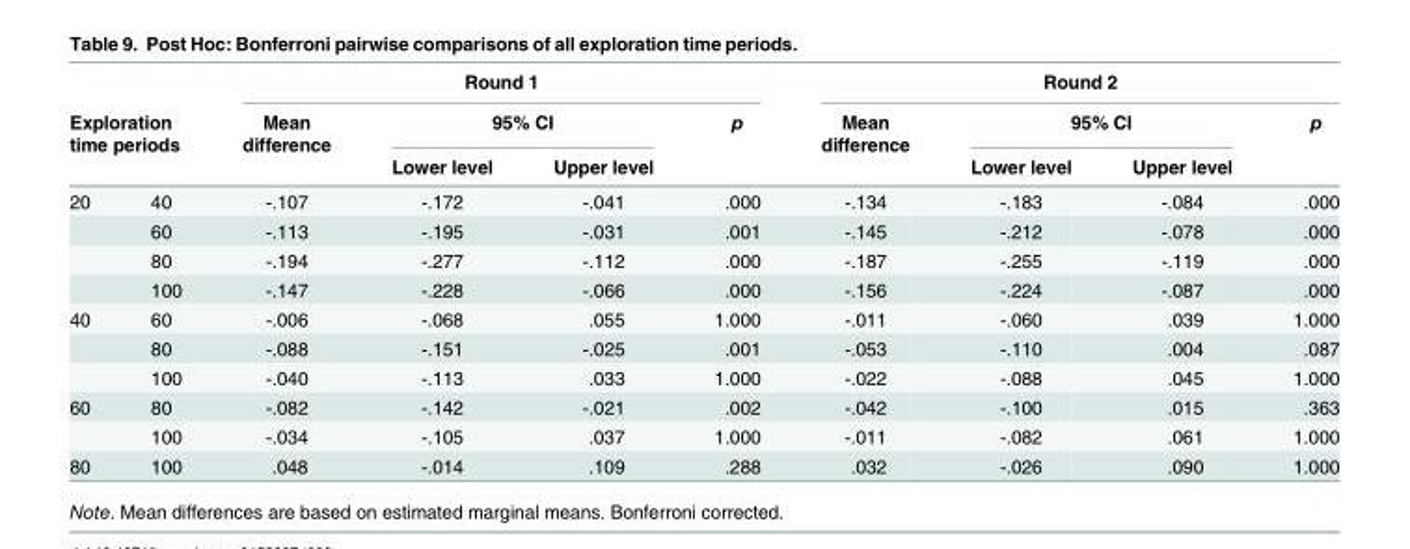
<table><thead><tr><td></td><td></td><td colspan="4">Round 1</td><td colspan="4">Round 2</td></tr><tr><td colspan="2">Exploration time periods</td><td rowspan="2">Mean difference</td><td colspan="2">95% CI</td><td rowspan="2">p</td><td rowspan="2">Mean difference</td><td colspan="2">95% CI</td><td rowspan="2">p</td></tr><tr><td></td><td></td><td>Lower level</td><td>Upper level</td><td>Lower level</td><td>Upper level</td></tr></thead><tbody><tr><td rowspan="4">20</td><td>40</td><td>-.107</td><td>-.172</td><td>-.041</td><td>.000</td><td>-.134</td><td>-.183</td><td>-.084</td><td>.000</td></tr><tr><td>60</td><td>-.113</td><td>-.195</td><td>-.031</td><td>.001</td><td>-.145</td><td>-.212</td><td>-.078</td><td>.000</td></tr><tr><td>80</td><td>-.194</td><td>-.277</td><td>-.112</td><td>.000</td><td>-.187</td><td>-.255</td><td>-.119</td><td>.000</td></tr><tr><td>100</td><td>-.147</td><td>-.228</td><td>-.066</td><td>.000</td><td>-.156</td><td>-.224</td><td>-.087</td><td>.000</td></tr><tr><td rowspan="3">40</td><td>60</td><td>-.006</td><td>-.068</td><td>.055</td><td>1.000</td><td>-.011</td><td>-.060</td><td>.039</td><td>1.000</td></tr><tr><td>80</td><td>-.088</td><td>-.151</td><td>-.025</td><td>.001</td><td>-.053</td><td>-.110</td><td>.004</td><td>.087</td></tr><tr><td>100</td><td>-.040</td><td>-.113</td><td>.033</td><td>1.000</td><td>-.022</td><td>-.088</td><td>.045</td><td>1.000</td></tr><tr><td rowspan="2">60</td><td>80</td><td>-.082</td><td>-.142</td><td>-.021</td><td>.002</td><td>-.042</td><td>-.100</td><td>.015</td><td>.363</td></tr><tr><td>100</td><td>-.034</td><td>-.105</td><td>.037</td><td>1.000</td><td>-.011</td><td>-.082</td><td>.061</td><td>1.000</td></tr><tr><td>80</td><td>100</td><td>.048</td><td>-.014</td><td>.109</td><td>.288</td><td>.032</td><td>-.026</td><td>.090</td><td>1.000</td></tr></tbody></table>